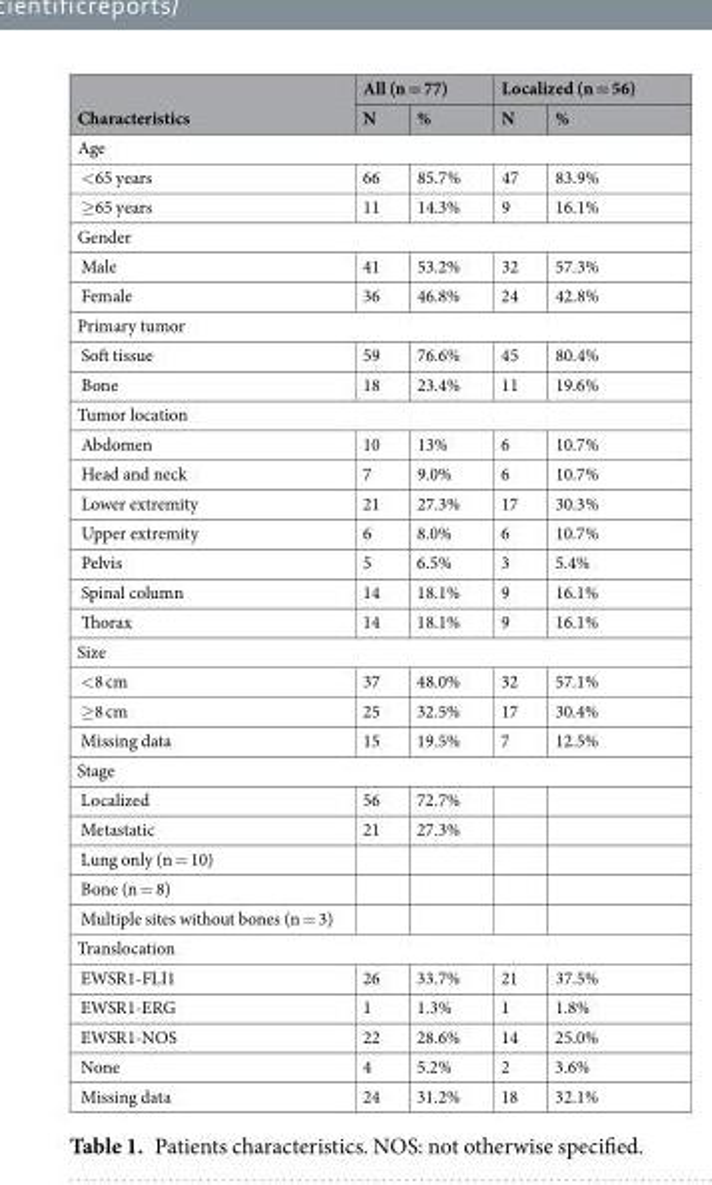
<table><thead><tr><td rowspan="2">Characteristics</td><td colspan="2">All (n = 77)</td><td colspan="2">Localized (n = 56)</td></tr><tr><td>N</td><td>%</td><td>N</td><td>%</td></tr></thead><tbody><tr><td colspan="5">Age</td></tr><tr><td>&lt;65 years</td><td>66</td><td>85.7%</td><td>47</td><td>83.9%</td></tr><tr><td>≥65 years</td><td>11</td><td>14.3%</td><td>9</td><td>16.1%</td></tr><tr><td colspan="5">Gender</td></tr><tr><td>Male</td><td>41</td><td>53.2%</td><td>32</td><td>57.3%</td></tr><tr><td>Female</td><td>36</td><td>46.8%</td><td>24</td><td>42.8%</td></tr><tr><td colspan="5">Primary tumor</td></tr><tr><td>Soft tissue</td><td>59</td><td>76.6%</td><td>45</td><td>80.4%</td></tr><tr><td>Bone</td><td>18</td><td>23.4%</td><td>11</td><td>19.6%</td></tr><tr><td colspan="5">Tumor location</td></tr><tr><td>Abdomen</td><td>10</td><td>13%</td><td>6</td><td>10.7%</td></tr><tr><td>Head and neck</td><td>7</td><td>9.0%</td><td>6</td><td>10.7%</td></tr><tr><td>Lower extremity</td><td>21</td><td>27.3%</td><td>17</td><td>30.3%</td></tr><tr><td>Upper extremity</td><td>6</td><td>8.0%</td><td>6</td><td>10.7%</td></tr><tr><td>Pelvis</td><td>5</td><td>6.5%</td><td>3</td><td>5.4%</td></tr><tr><td>Spinal column</td><td>14</td><td>18.1%</td><td>9</td><td>16.1%</td></tr><tr><td>Thorax</td><td>14</td><td>18.1%</td><td>9</td><td>16.1%</td></tr><tr><td colspan="5">Size</td></tr><tr><td>&lt;8 cm</td><td>37</td><td>48.0%</td><td>32</td><td>57.1%</td></tr><tr><td>≥8 cm</td><td>25</td><td>32.5%</td><td>17</td><td>30.4%</td></tr><tr><td>Missing data</td><td>15</td><td>19.5%</td><td>7</td><td>12.5%</td></tr><tr><td colspan="5">Stage</td></tr><tr><td>Localized</td><td>56</td><td>72.7%</td><td></td><td></td></tr><tr><td>Metastatic</td><td>21</td><td>27.3%</td><td></td><td></td></tr><tr><td colspan="5">Lung only (n = 10)</td></tr><tr><td colspan="5">Bone (n = 8)</td></tr><tr><td colspan="5">Multiple sites without bones (n = 3)</td></tr><tr><td colspan="5">Translocation</td></tr><tr><td>EWSR1-FLI1</td><td>26</td><td>33.7%</td><td>21</td><td>37.5%</td></tr><tr><td>EWSR1-ERG</td><td>1</td><td>1.3%</td><td>1</td><td>1.8%</td></tr><tr><td>EWSR1-NOS</td><td>22</td><td>28.6%</td><td>14</td><td>25.0%</td></tr><tr><td>None</td><td>4</td><td>5.2%</td><td>2</td><td>3.6%</td></tr><tr><td>Missing data</td><td>24</td><td>31.2%</td><td>18</td><td>32.1%</td></tr></tbody></table>